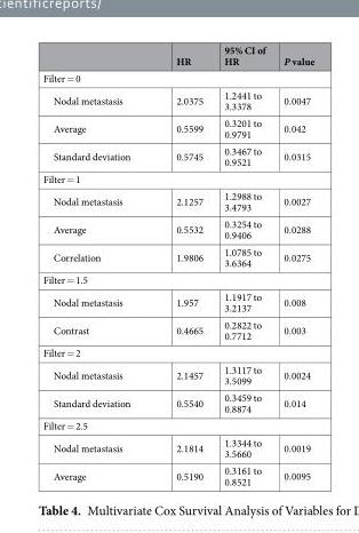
<table><thead><tr><td></td><td>HR</td><td>95% CI of HR</td><td>P value</td></tr></thead><tbody><tr><td colspan="4">Filter = 0</td></tr><tr><td>Nodal metastasis</td><td>2.0375</td><td>1.2441 to 3.3378</td><td>0.0047</td></tr><tr><td>Average</td><td>0.5599</td><td>0.3201 to 0.9791</td><td>0.042</td></tr><tr><td>Standard deviation</td><td>0.5745</td><td>0.3467 to 0.9521</td><td>0.0315</td></tr><tr><td colspan="4">Filter = 1</td></tr><tr><td>Nodal metastasis</td><td>2.1257</td><td>1.2988 to 3.4793</td><td>0.0027</td></tr><tr><td>Average</td><td>0.5532</td><td>0.3254 to 0.9406</td><td>0.0288</td></tr><tr><td>Correlation</td><td>1.9806</td><td>1.0785 to 3.6364</td><td>0.0275</td></tr><tr><td colspan="4">Filter = 1.5</td></tr><tr><td>Nodal metastasis</td><td>1.957</td><td>1.1917 to 3.2137</td><td>0.008</td></tr><tr><td>Contrast</td><td>0.4665</td><td>0.2822 to 0.7712</td><td>0.003</td></tr><tr><td colspan="4">Filter = 2</td></tr><tr><td>Nodal metastasis</td><td>2.1457</td><td>1.3117 to 3.5099</td><td>0.0024</td></tr><tr><td>Standard deviation</td><td>0.5540</td><td>0.3459 to 0.8874</td><td>0.014</td></tr><tr><td colspan="4">Filter = 2.5</td></tr><tr><td>Nodal metastasis</td><td>2.1814</td><td>1.3344 to 3.5660</td><td>0.0019</td></tr><tr><td>Average</td><td>0.5190</td><td>0.3161 to 0.8521</td><td>0.0095</td></tr></tbody></table>